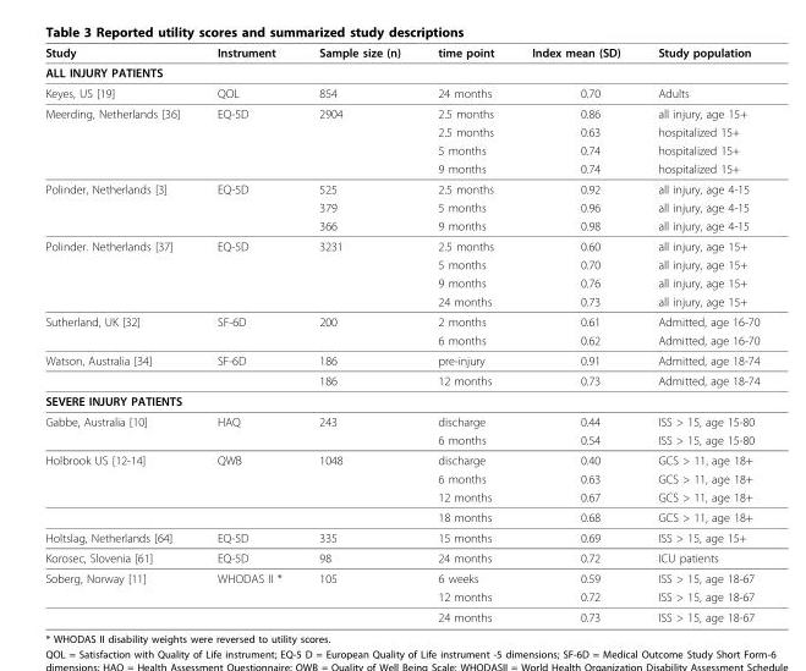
<table><thead><tr><td>Study</td><td>Instrument</td><td>Sample size (n)</td><td>time point</td><td>Index mean (SD)</td><td>Study population</td></tr></thead><tbody><tr><td colspan="6">ALL INJURY PATIENTS</td></tr><tr><td>Keyes, US [19]</td><td>QOL</td><td>854</td><td>24 months</td><td>0.70</td><td>Adults</td></tr><tr><td rowspan="4">Meerding, Netherlands [36]</td><td>EQ-5D</td><td>2904</td><td>2.5 months</td><td>0.86</td><td>all injury, age 15+</td></tr><tr><td></td><td></td><td>2.5 months</td><td>0.63</td><td>hospitalized 15+</td></tr><tr><td></td><td></td><td>5 months</td><td>0.74</td><td>hospitalized 15+</td></tr><tr><td></td><td></td><td>9 months</td><td>0.74</td><td>hospitalized 15+</td></tr><tr><td rowspan="3">Polinder, Netherlands [3]</td><td>EQ-5D</td><td>525</td><td>2.5 months</td><td>0.92</td><td>all injury, age 4-15</td></tr><tr><td></td><td>379</td><td>5 months</td><td>0.96</td><td>all injury, age 4-15</td></tr><tr><td></td><td>366</td><td>9 months</td><td>0.98</td><td>all injury, age 4-15</td></tr><tr><td rowspan="4">Polinder. Netherlands [37]</td><td>EQ-5D</td><td>3231</td><td>2.5 months</td><td>0.60</td><td>all injury, age 15+</td></tr><tr><td></td><td></td><td>5 months</td><td>0.70</td><td>all injury, age 15+</td></tr><tr><td></td><td></td><td>9 months</td><td>0.76</td><td>all injury, age 15+</td></tr><tr><td></td><td></td><td>24 months</td><td>0.73</td><td>all injury, age 15+</td></tr><tr><td rowspan="2">Sutherland, UK [32]</td><td>SF-6D</td><td>200</td><td>2 months</td><td>0.61</td><td>Admitted, age 16-70</td></tr><tr><td></td><td></td><td>6 months</td><td>0.62</td><td>Admitted, age 16-70</td></tr><tr><td rowspan="2">Watson, Australia [34]</td><td>SF-6D</td><td>186</td><td>pre-injury</td><td>0.91</td><td>Admitted, age 18-74</td></tr><tr><td></td><td>186</td><td>12 months</td><td>0.73</td><td>Admitted, age 18-74</td></tr><tr><td colspan="6">SEVERE INJURY PATIENTS</td></tr><tr><td rowspan="2">Gabbe, Australia [10]</td><td>HAQ</td><td>243</td><td>discharge</td><td>0.44</td><td>ISS &gt; 15, age 15-80</td></tr><tr><td></td><td></td><td>6 months</td><td>0.54</td><td>ISS &gt; 15, age 15-80</td></tr><tr><td rowspan="4">Holbrook US [12-14]</td><td>QWB</td><td>1048</td><td>discharge</td><td>0.40</td><td>GCS &gt; 11, age 18+</td></tr><tr><td></td><td></td><td>6 months</td><td>0.63</td><td>GCS &gt; 11, age 18+</td></tr><tr><td></td><td></td><td>12 months</td><td>0.67</td><td>GCS &gt; 11, age 18+</td></tr><tr><td></td><td></td><td>18 months</td><td>0.68</td><td>GCS &gt; 11, age 18+</td></tr><tr><td>Holtslag, Netherlands [64]</td><td>EQ-5D</td><td>335</td><td>15 months</td><td>0.69</td><td>ISS &gt; 15, age 15+</td></tr><tr><td>Korosec, Slovenia [61]</td><td>EQ-5D</td><td>98</td><td>24 months</td><td>0.72</td><td>ICU patients</td></tr><tr><td rowspan="3">Soberg, Norway [11]</td><td>WHODAS II *</td><td>105</td><td>6 weeks</td><td>0.59</td><td>ISS &gt; 15, age 18-67</td></tr><tr><td></td><td></td><td>12 months</td><td>0.72</td><td>ISS &gt; 15, age 18-67</td></tr><tr><td></td><td></td><td>24 months</td><td>0.73</td><td>ISS &gt; 15, age 18-67</td></tr></tbody></table>